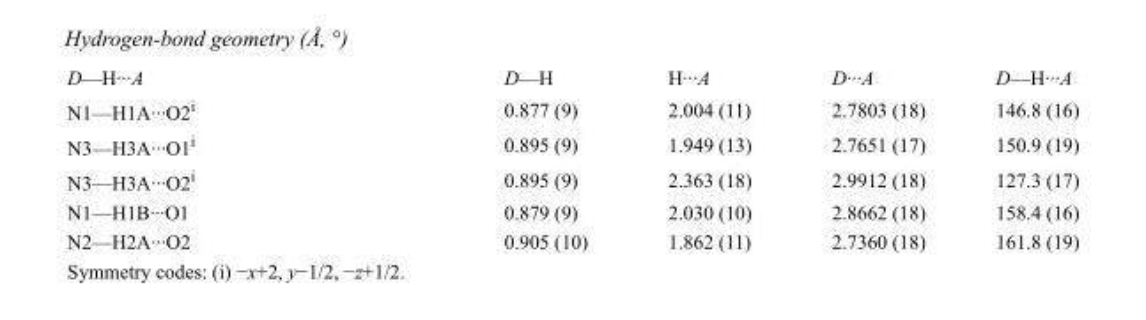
<table><tbody><tr><td>D—H···A</td><td>D—H</td><td>H···A</td><td>D···A</td><td>D—H···A</td></tr><tr><td>N1—H1A···O2<sup>i</sup></td><td>0.877 (9)</td><td>2.004 (11)</td><td>2.7803 (18)</td><td>146.8 (16)</td></tr><tr><td>N3—H3A···O1<sup>i</sup></td><td>0.895 (9)</td><td>1.949 (13)</td><td>2.7651 (17)</td><td>150.9 (19)</td></tr><tr><td>N3—H3A···O2<sup>i</sup></td><td>0.895 (9)</td><td>2.363 (18)</td><td>2.9912 (18)</td><td>127.3 (17)</td></tr><tr><td>N1—H1B···O1</td><td>0.879 (9)</td><td>2.030 (10)</td><td>2.8662 (18)</td><td>158.4 (16)</td></tr><tr><td>N2—H2A···O2</td><td>0.905 (10)</td><td>1.862 (11)</td><td>2.7360 (18)</td><td>161.8 (19)</td></tr></tbody></table>